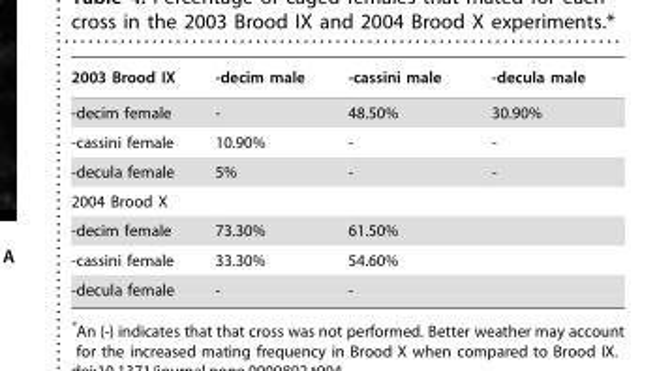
<table><thead><tr><td>2003 Brood IX</td><td>-decim male</td><td>-cassini male</td><td>-decula male</td></tr></thead><tbody><tr><td>-decim female</td><td>-</td><td>48.50%</td><td>30.90%</td></tr><tr><td>-cassini female</td><td>10.90%</td><td>-</td><td>-</td></tr><tr><td>-decula female</td><td>5%</td><td>-</td><td>-</td></tr><tr><td colspan="4">2004 Brood X</td></tr><tr><td>-decim female</td><td>73.30%</td><td>61.50%</td><td></td></tr><tr><td>-cassini female</td><td>33.30%</td><td>54.60%</td><td></td></tr><tr><td>-decula female</td><td>-</td><td>-</td><td></td></tr></tbody></table>